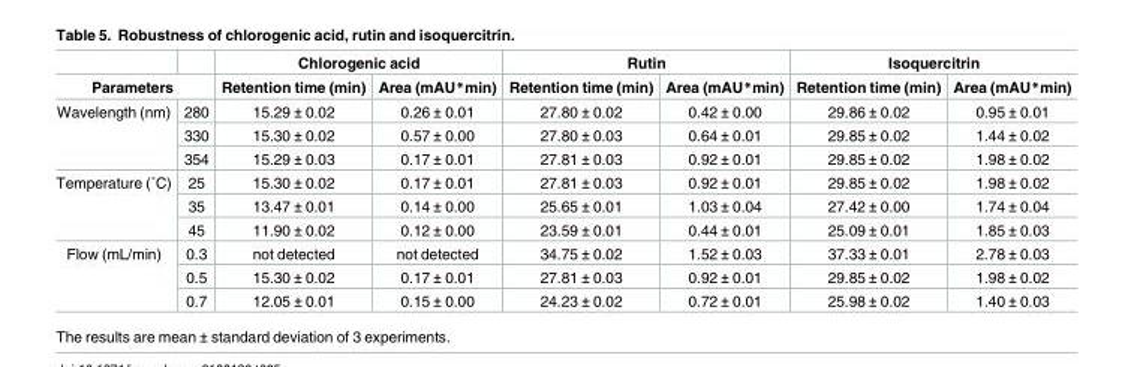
<table><thead><tr><td></td><td></td><td colspan="2">Chlorogenic acid</td><td colspan="2">Rutin</td><td colspan="2">Isoquercitrin</td></tr><tr><td colspan="2">Parameters</td><td>Retention time (min)</td><td>Area (mAU*min)</td><td>Retention time (min)</td><td>Area (mAU*min)</td><td>Retention time (min)</td><td>Area (mAU*min)</td></tr></thead><tbody><tr><td rowspan="3">Wavelength (nm)</td><td>280</td><td>15.29 ± 0.02</td><td>0.26 ± 0.01</td><td>27.80 ± 0.02</td><td>0.42 ± 0.00</td><td>29.86 ± 0.02</td><td>0.95 ± 0.01</td></tr><tr><td>330</td><td>15.30 ± 0.02</td><td>0.57 ± 0.00</td><td>27.80 ± 0.03</td><td>0.64 ± 0.01</td><td>29.85 ± 0.02</td><td>1.44 ± 0.02</td></tr><tr><td>354</td><td>15.29 ± 0.03</td><td>0.17 ± 0.01</td><td>27.81 ± 0.03</td><td>0.92 ± 0.01</td><td>29.85 ± 0.02</td><td>1.98 ± 0.02</td></tr><tr><td rowspan="3">Temperature (˚C)</td><td>25</td><td>15.30 ± 0.02</td><td>0.17 ± 0.01</td><td>27.81 ± 0.03</td><td>0.92 ± 0.01</td><td>29.85 ± 0.02</td><td>1.98 ± 0.02</td></tr><tr><td>35</td><td>13.47 ± 0.01</td><td>0.14 ± 0.00</td><td>25.65 ± 0.01</td><td>1.03 ± 0.04</td><td>27.42 ± 0.00</td><td>1.74 ± 0.04</td></tr><tr><td>45</td><td>11.90 ± 0.02</td><td>0.12 ± 0.00</td><td>23.59 ± 0.01</td><td>0.44 ± 0.01</td><td>25.09 ± 0.01</td><td>1.85 ± 0.03</td></tr><tr><td rowspan="3">Flow (mL/min)</td><td>0.3</td><td>not detected</td><td>not detected</td><td>34.75 ± 0.02</td><td>1.52 ± 0.03</td><td>37.33 ± 0.01</td><td>2.78 ± 0.03</td></tr><tr><td>0.5</td><td>15.30 ± 0.02</td><td>0.17 ± 0.01</td><td>27.81 ± 0.03</td><td>0.92 ± 0.01</td><td>29.85 ± 0.02</td><td>1.98 ± 0.02</td></tr><tr><td>0.7</td><td>12.05 ± 0.01</td><td>0.15 ± 0.00</td><td>24.23 ± 0.02</td><td>0.72 ± 0.01</td><td>25.98 ± 0.02</td><td>1.40 ± 0.03</td></tr></tbody></table>